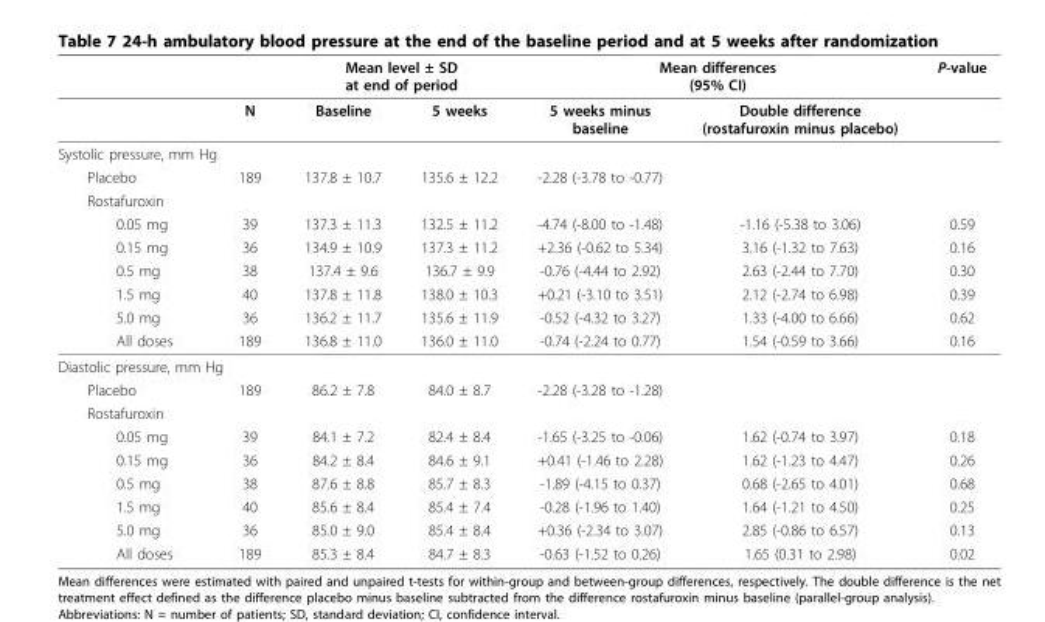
<table><thead><tr><td rowspan="2"></td><td rowspan="2">N</td><td colspan="2">Mean level ± SD at end of period</td><td colspan="2">Mean differences (95% CI)</td><td rowspan="2">P-value</td></tr><tr><td>Baseline</td><td>5 weeks</td><td>5 weeks minus baseline</td><td>Double difference (rostafuroxin minus placebo)</td></tr></thead><tbody><tr><td colspan="7">Systolic pressure, mm Hg</td></tr><tr><td>Placebo</td><td>189</td><td>137.8 ± 10.7</td><td>135.6 ± 12.2</td><td>-2.28 (-3.78 to -0.77)</td><td></td><td></td></tr><tr><td colspan="7">Rostafuroxin</td></tr><tr><td>0.05 mg</td><td>39</td><td>137.3 ± 11.3</td><td>132.5 ± 11.2</td><td>-4.74 (-8.00 to -1.48)</td><td>-1.16 (-5.38 to 3.06)</td><td>0.59</td></tr><tr><td>0.15 mg</td><td>36</td><td>134.9 ± 10.9</td><td>137.3 ± 11.2</td><td>+2.36 (-0.62 to 5.34)</td><td>3.16 (-1.32 to 7.63)</td><td>0.16</td></tr><tr><td>0.5 mg</td><td>38</td><td>137.4 ± 9.6</td><td>136.7 ± 9.9</td><td>-0.76 (-4.44 to 2.92)</td><td>2.63 (-2.44 to 7.70)</td><td>0.30</td></tr><tr><td>1.5 mg</td><td>40</td><td>137.8 ± 11.8</td><td>138.0 ± 10.3</td><td>+0.21 (-3.10 to 3.51)</td><td>2.12 (-2.74 to 6.98)</td><td>0.39</td></tr><tr><td>5.0 mg</td><td>36</td><td>136.2 ± 11.7</td><td>135.6 ± 11.9</td><td>-0.52 (-4.32 to 3.27)</td><td>1.33 (-4.00 to 6.66)</td><td>0.62</td></tr><tr><td>All doses</td><td>189</td><td>136.8 ± 11.0</td><td>136.0 ± 11.0</td><td>-0.74 (-2.24 to 0.77)</td><td>1.54 (-0.59 to 3.66)</td><td>0.16</td></tr><tr><td colspan="7">Diastolic pressure, mm Hg</td></tr><tr><td>Placebo</td><td>189</td><td>86.2 ± 7.8</td><td>84.0 ± 8.7</td><td>-2.28 (-3.28 to -1.28)</td><td></td><td></td></tr><tr><td colspan="7">Rostafuroxin</td></tr><tr><td>0.05 mg</td><td>39</td><td>84.1 ± 7.2</td><td>82.4 ± 8.4</td><td>-1.65 (-3.25 to -0.06)</td><td>1.62 (-0.74 to 3.97)</td><td>0.18</td></tr><tr><td>0.15 mg</td><td>36</td><td>84.2 ± 8.4</td><td>84.6 ± 9.1</td><td>+0.41 (-1.46 to 2.28)</td><td>1.62 (-1.23 to 4.47)</td><td>0.26</td></tr><tr><td>0.5 mg</td><td>38</td><td>87.6 ± 8.8</td><td>85.7 ± 8.3</td><td>-1.89 (-4.15 to 0.37)</td><td>0.68 (-2.65 to 4.01)</td><td>0.68</td></tr><tr><td>1.5 mg</td><td>40</td><td>85.6 ± 8.4</td><td>85.4 ± 7.4</td><td>-0.28 (-1.96 to 1.40)</td><td>1.64 (-1.21 to 4.50)</td><td>0.25</td></tr><tr><td>5.0 mg</td><td>36</td><td>85.0 ± 9.0</td><td>85.4 ± 8.4</td><td>+0.36 (-2.34 to 3.07)</td><td>2.85 (-0.86 to 6.57)</td><td>0.13</td></tr><tr><td>All doses</td><td>189</td><td>85.3 ± 8.4</td><td>84.7 ± 8.3</td><td>-0.63 (-1.52 to 0.26)</td><td>1.65 (0.31 to 2.98)</td><td>0.02</td></tr></tbody></table>